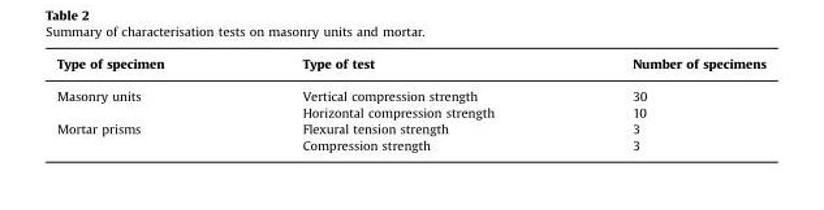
<table><thead><tr><td>Type of specimen</td><td>Type of test</td><td>Number of specimens</td></tr></thead><tbody><tr><td rowspan="2">Masonry units</td><td>Vertical compression strength</td><td>30</td></tr><tr><td>Horizontal compression strength</td><td>10</td></tr><tr><td rowspan="2">Mortar prisms</td><td>Flexural tension strength</td><td>3</td></tr><tr><td>Compression strength</td><td>3</td></tr></tbody></table>